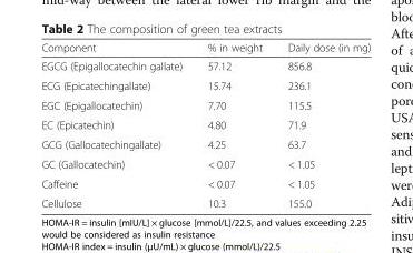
<table><thead><tr><td>Component</td><td>% in weight</td><td>Daily dose (in mg)</td></tr></thead><tbody><tr><td>EGCG (Epigallocatechin gallate)</td><td>57.12</td><td>856.8</td></tr><tr><td>ECG (Epicatechingallate)</td><td>15.74</td><td>236.1</td></tr><tr><td>EGC (Epigallocatechin)</td><td>7.70</td><td>115.5</td></tr><tr><td>EC (Epicatechin)</td><td>4.80</td><td>71.9</td></tr><tr><td>GCG (Gallocatechingallate)</td><td>4.25</td><td>63.7</td></tr><tr><td>GC (Gallocatechin)</td><td>&lt; 0.07</td><td>&lt; 1.05</td></tr><tr><td>Caffeine</td><td>&lt; 0.07</td><td>&lt; 1.05</td></tr><tr><td>Cellulose</td><td>10.3</td><td>155.0</td></tr></tbody></table>